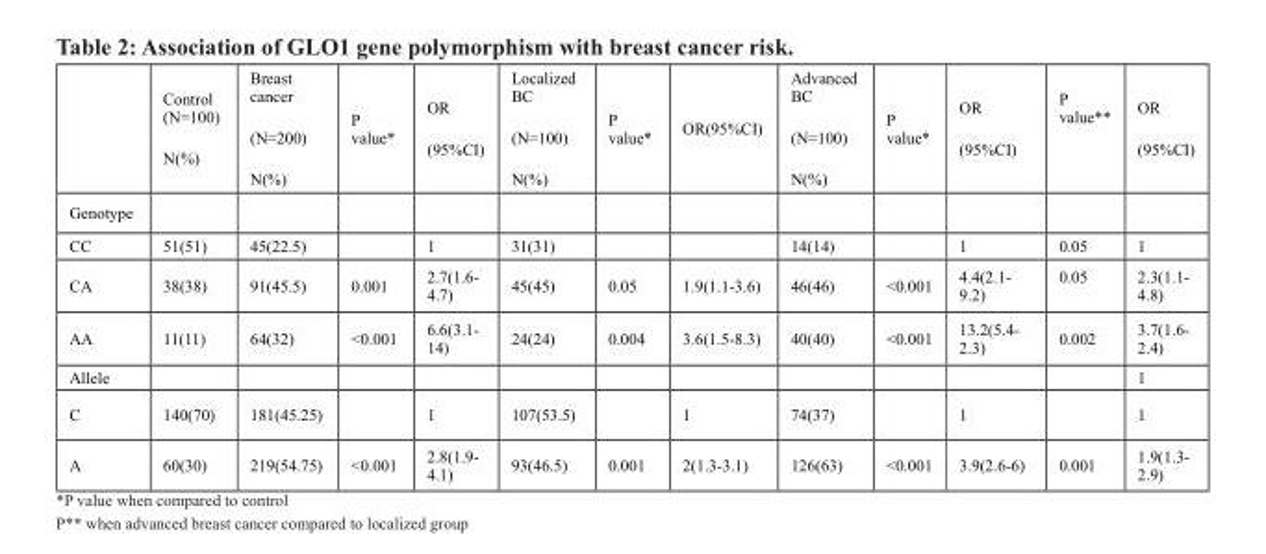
<table><thead><tr><td></td><td>Control (N=100) N(%)</td><td>Breast cancer (N=200) N(%)</td><td>P value*</td><td>OR (95%CI)</td><td>Localized BC (N=100) N(%)</td><td>P value*</td><td>OR(95%CI)</td><td>Advanced BC (N=100) N(%)</td><td>P value*</td><td>OR (95%CI)</td><td>P value**</td><td>OR (95%CI)</td></tr></thead><tbody><tr><td colspan="13">Genotype</td></tr><tr><td>CC</td><td>51(51)</td><td>45(22.5)</td><td></td><td>1</td><td>31(31)</td><td></td><td></td><td>14(14)</td><td></td><td>1</td><td>0.05</td><td>1</td></tr><tr><td>CA</td><td>38(38)</td><td>91(45.5)</td><td>0.001</td><td>2.7(1.6- 4.7)</td><td>45(45)</td><td>0.05</td><td>1.9(1.1-3.6)</td><td>46(46)</td><td>&lt;0.001</td><td>4.4(2.1- 9.2)</td><td>0.05</td><td>2.3(1.1- 4.8)</td></tr><tr><td>AA</td><td>11(11)</td><td>64(32)</td><td>&lt;0.001</td><td>6.6(3.1- 14)</td><td>24(24)</td><td>0.004</td><td>3.6(1.5-8.3)</td><td>40(40)</td><td>&lt;0.001</td><td>13.2(5.4- 2.3)</td><td>0.002</td><td>3.7(1.6- 2.4)</td></tr><tr><td>Allele</td><td></td><td></td><td></td><td></td><td></td><td></td><td></td><td></td><td></td><td></td><td></td><td>1</td></tr><tr><td>C</td><td>140(70)</td><td>181(45.25)</td><td></td><td>1</td><td>107(53.5)</td><td></td><td>1</td><td>74(37)</td><td></td><td>1</td><td></td><td>1</td></tr><tr><td>A</td><td>60(30)</td><td>219(54.75)</td><td>&lt;0.001</td><td>2.8(1.9- 4.1)</td><td>93(46.5)</td><td>0.001</td><td>2(1.3-3.1)</td><td>126(63)</td><td>&lt;0.001</td><td>3.9(2.6-6)</td><td>0.001</td><td>1.9(1.3- 2.9)</td></tr></tbody></table>